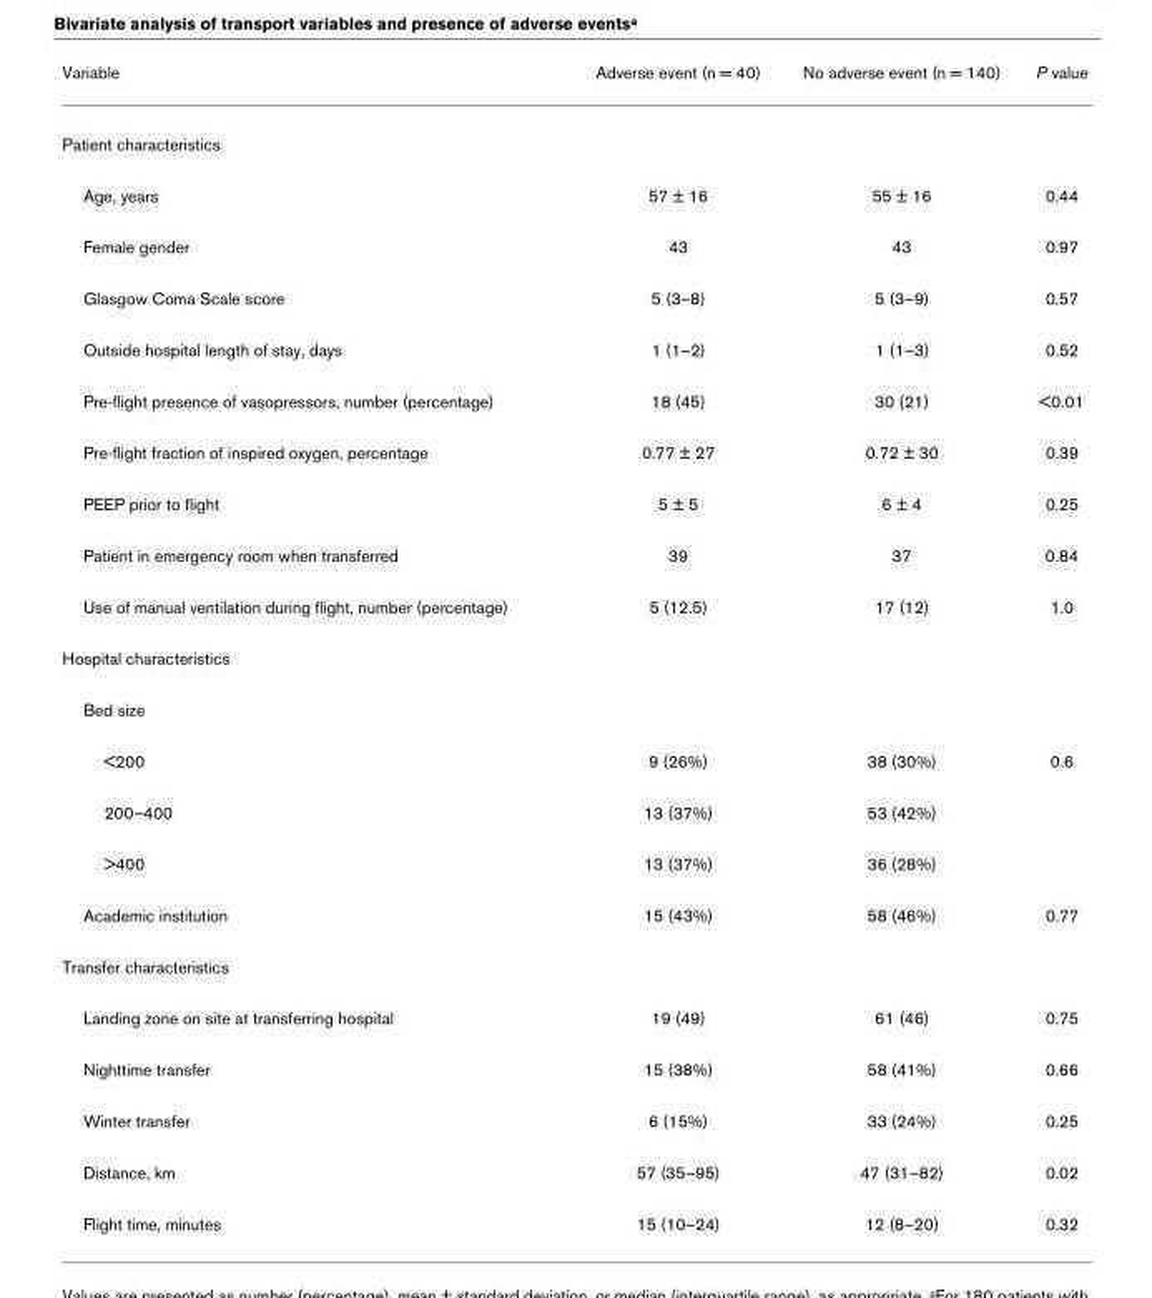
<table><thead><tr><td>Variable</td><td>Adverse event (n = 40)</td><td>No adverse event (n = 140)</td><td>P value</td></tr></thead><tbody><tr><td colspan="4">Patient characteristics</td></tr><tr><td>Age, years</td><td>57 ± 16</td><td>55 ± 16</td><td>0.44</td></tr><tr><td>Female gender</td><td>43</td><td>43</td><td>0.97</td></tr><tr><td>Glasgow Coma Scale score</td><td>5 (3–8)</td><td>5 (3–9)</td><td>0.57</td></tr><tr><td>Outside hospital length of stay, days</td><td>1 (1–2)</td><td>1 (1–3)</td><td>0.52</td></tr><tr><td>Pre-flight presence of vasopressors, number (percentage)</td><td>18 (45)</td><td>30 (21)</td><td>&lt;0.01</td></tr><tr><td>Pre-flight fraction of inspired oxygen, percentage</td><td>0.77 ± 27</td><td>0.72 ± 30</td><td>0.39</td></tr><tr><td>PEEP prior to flight</td><td>5 ± 5</td><td>6 ± 4</td><td>0.25</td></tr><tr><td>Patient in emergency room when transferred</td><td>39</td><td>37</td><td>0.84</td></tr><tr><td>Use of manual ventilation during flight, number (percentage)</td><td>5 (12.5)</td><td>17 (12)</td><td>1.0</td></tr><tr><td colspan="4">Hospital characteristics</td></tr><tr><td colspan="4">Bed size</td></tr><tr><td>&lt;200</td><td>9 (26%)</td><td>38 (30%)</td><td>0.6</td></tr><tr><td>200–400</td><td>13 (37%)</td><td>53 (42%)</td><td></td></tr><tr><td>&gt;400</td><td>13 (37%)</td><td>36 (28%)</td><td></td></tr><tr><td>Academic institution</td><td>15 (43%)</td><td>58 (46%)</td><td>0.77</td></tr><tr><td colspan="4">Transfer characteristics</td></tr><tr><td>Landing zone on site at transferring hospital</td><td>19 (49)</td><td>61 (46)</td><td>0.75</td></tr><tr><td>Nighttime transfer</td><td>15 (38%)</td><td>58 (41%)</td><td>0.66</td></tr><tr><td>Winter transfer</td><td>6 (15%)</td><td>33 (24%)</td><td>0.25</td></tr><tr><td>Distance, km</td><td>57 (35–95)</td><td>47 (31–82)</td><td>0.02</td></tr><tr><td>Flight time, minutes</td><td>15 (10–24)</td><td>12 (8–20)</td><td>0.32</td></tr></tbody></table>